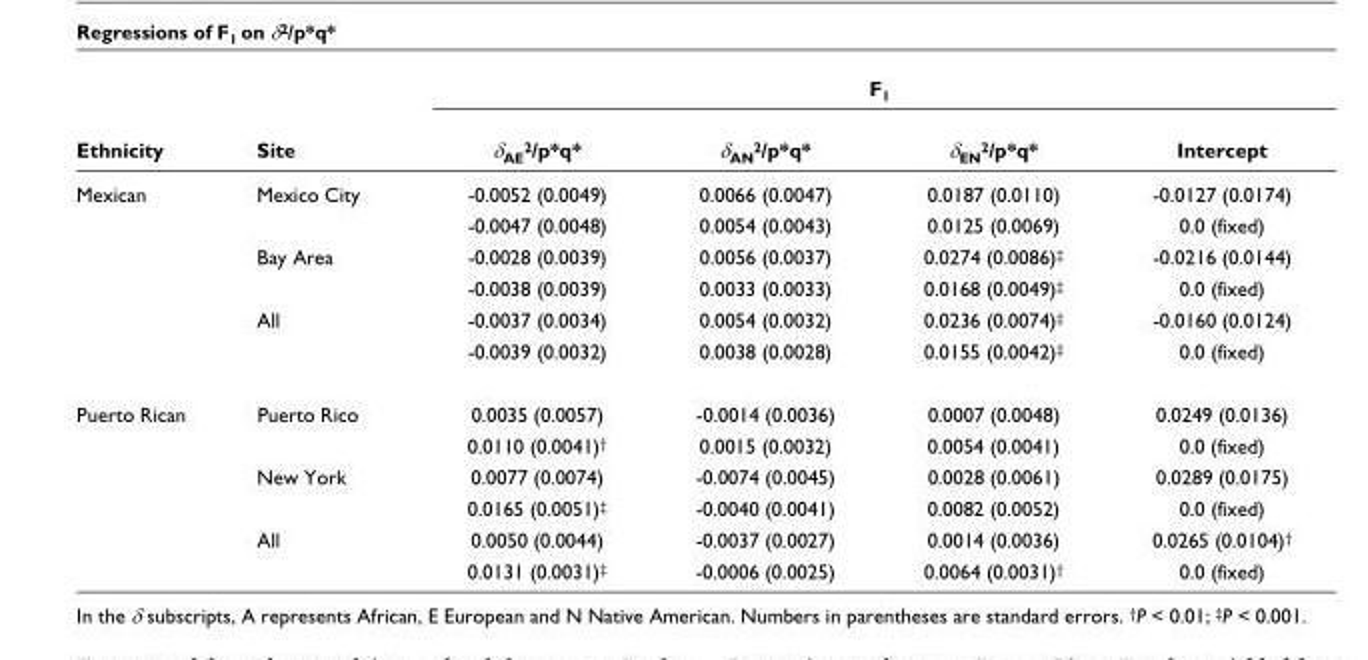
<table><thead><tr><td rowspan="2">Ethnicity</td><td rowspan="2">Site</td><td colspan="4">F<sub>1</sub></td></tr><tr><td>δ<sub>AE</sub><sup>2</sup>/p*q*</td><td>δ<sub>AN</sub><sup>2</sup>/p*q*</td><td>δ<sub>EN</sub><sup>2</sup>/p*q*</td><td>Intercept</td></tr></thead><tbody><tr><td rowspan="6">Mexican</td><td>Mexico City</td><td>-0.0052 (0.0049)</td><td>0.0066 (0.0047)</td><td>0.0187 (0.0110)</td><td>-0.0127 (0.0174)</td></tr><tr><td></td><td>-0.0047 (0.0048)</td><td>0.0054 (0.0043)</td><td>0.0125 (0.0069)</td><td>0.0 (fixed)</td></tr><tr><td>Bay Area</td><td>-0.0028 (0.0039)</td><td>0.0056 (0.0037)</td><td>0.0274 (0.0086)<sup>‡</sup></td><td>-0.0216 (0.0144)</td></tr><tr><td></td><td>-0.0038 (0.0039)</td><td>0.0033 (0.0033)</td><td>0.0168 (0.0049)<sup>‡</sup></td><td>0.0 (fixed)</td></tr><tr><td>All</td><td>-0.0037 (0.0034)</td><td>0.0054 (0.0032)</td><td>0.0236 (0.0074)<sup>‡</sup></td><td>-0.0160 (0.0124)</td></tr><tr><td></td><td>-0.0039 (0.0032)</td><td>0.0038 (0.0028)</td><td>0.0155 (0.0042)<sup>‡</sup></td><td>0.0 (fixed)</td></tr><tr><td rowspan="6">Puerto Rican</td><td>Puerto Rico</td><td>0.0035 (0.0057)</td><td>-0.0014 (0.0036)</td><td>0.0007 (0.0048)</td><td>0.0249 (0.0136)</td></tr><tr><td></td><td>0.0110 (0.0041)<sup>†</sup></td><td>0.0015 (0.0032)</td><td>0.0054 (0.0041)</td><td>0.0 (fixed)</td></tr><tr><td>New York</td><td>0.0077 (0.0074)</td><td>-0.0074 (0.0045)</td><td>0.0028 (0.0061)</td><td>0.0289 (0.0175)</td></tr><tr><td></td><td>0.0165 (0.0051)<sup>‡</sup></td><td>-0.0040 (0.0041)</td><td>0.0082 (0.0052)</td><td>0.0 (fixed)</td></tr><tr><td>All</td><td>0.0050 (0.0044)</td><td>-0.0037 (0.0027)</td><td>0.0014 (0.0036)</td><td>0.0265 (0.0104)<sup>†</sup></td></tr><tr><td></td><td>0.0131 (0.0031)<sup>‡</sup></td><td>-0.0006 (0.0025)</td><td>0.0064 (0.0031)<sup>†</sup></td><td>0.0 (fixed)</td></tr></tbody></table>